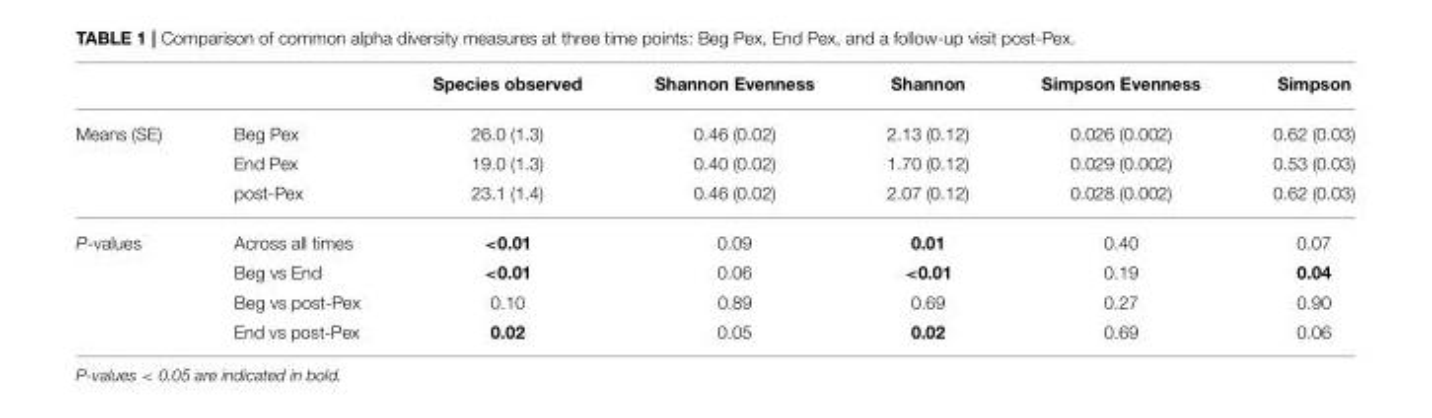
<table><thead><tr><td></td><td></td><td>Species observed</td><td>Shannon Evenness</td><td>Shannon</td><td>Simpson Evenness</td><td>Simpson</td></tr></thead><tbody><tr><td rowspan="3">Means (SE)</td><td>Beg Pex</td><td>26.0 (1.3)</td><td>0.46 (0.02)</td><td>2.13 (0.12)</td><td>0.026 (0.002)</td><td>0.62 (0.03)</td></tr><tr><td>End Pex</td><td>19.0 (1.3)</td><td>0.40 (0.02)</td><td>1.70 (0.12)</td><td>0.029 (0.002)</td><td>0.53 (0.03)</td></tr><tr><td>post-Pex</td><td>23.1 (1.4)</td><td>0.46 (0.02)</td><td>2.07 (0.12)</td><td>0.028 (0.002)</td><td>0.62 (0.03)</td></tr><tr><td rowspan="4">P-values</td><td>Across all times</td><td>&lt;0.01</td><td>0.09</td><td>0.01</td><td>0.40</td><td>0.07</td></tr><tr><td>Beg vs End</td><td>&lt;0.01</td><td>0.06</td><td>&lt;0.01</td><td>0.19</td><td>0.04</td></tr><tr><td>Beg vs post-Pex</td><td>0.10</td><td>0.89</td><td>0.69</td><td>0.27</td><td>0.90</td></tr><tr><td>End vs post-Pex</td><td>0.02</td><td>0.05</td><td>0.02</td><td>0.69</td><td>0.06</td></tr></tbody></table>